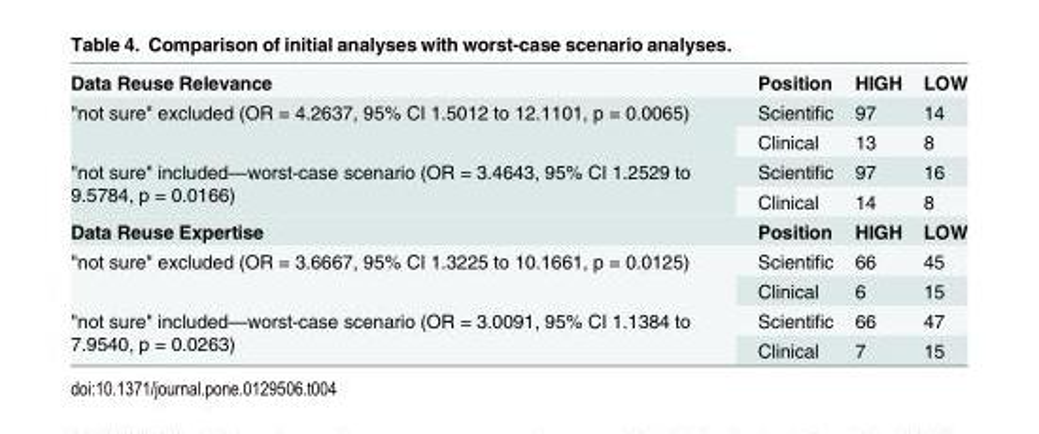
<table><tbody><tr><td>Data Reuse Relevance</td><td>Position</td><td>HIGH</td><td>LOW</td></tr><tr><td rowspan="2">&quot;not sure&quot; excluded (OR = 4.2637, 95% CI 1.5012 to 12.1101, p = 0.0065)</td><td>Scientific</td><td>97</td><td>14</td></tr><tr><td>Clinical</td><td>13</td><td>8</td></tr><tr><td rowspan="2">&quot;not sure&quot; included—worst-case scenario (OR = 3.4643, 95% CI 1.2529 to 9.5784, p = 0.0166)</td><td>Scientific</td><td>97</td><td>16</td></tr><tr><td>Clinical</td><td>14</td><td>8</td></tr><tr><td>Data Reuse Expertise</td><td>Position</td><td>HIGH</td><td>LOW</td></tr><tr><td rowspan="2">&quot;not sure&quot; excluded (OR = 3.6667, 95% CI 1.3225 to 10.1661, p = 0.0125)</td><td>Scientific</td><td>66</td><td>45</td></tr><tr><td>Clinical</td><td>6</td><td>15</td></tr><tr><td rowspan="2">&quot;not sure&quot; included—worst-case scenario (OR = 3.0091, 95% CI 1.1384 to 7.9540, p = 0.0263)</td><td>Scientific</td><td>66</td><td>47</td></tr><tr><td>Clinical</td><td>7</td><td>15</td></tr></tbody></table>